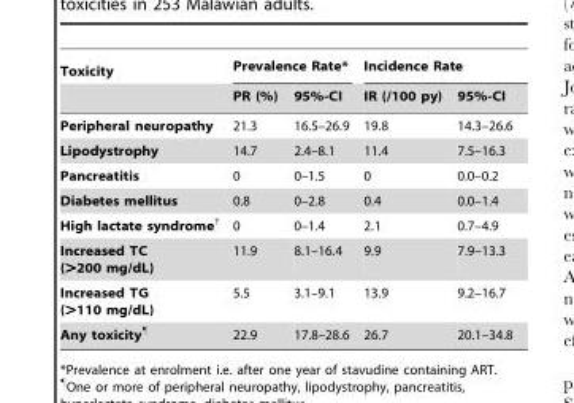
<table><thead><tr><td rowspan="2">Toxicity</td><td colspan="2">Prevalence Rate*</td><td colspan="2">Incidence Rate</td></tr><tr><td>PR (%)</td><td>95%-CI</td><td>IR (/100 py)</td><td>95%-CI</td></tr></thead><tbody><tr><td>Peripheral neuropathy</td><td>21.3</td><td>16.5–26.9</td><td>19.8</td><td>14.3–26.6</td></tr><tr><td>Lipodystrophy</td><td>14.7</td><td>2.4–8.1</td><td>11.4</td><td>7.5–16.3</td></tr><tr><td>Pancreatitis</td><td>0</td><td>0–1.5</td><td>0</td><td>0.0–0.2</td></tr><tr><td>Diabetes mellitus</td><td>0.8</td><td>0–2.8</td><td>0.4</td><td>0.0–1.4</td></tr><tr><td>High lactate syndrome†</td><td>0</td><td>0–1.4</td><td>2.1</td><td>0.7–4.9</td></tr><tr><td>Increased TC (&gt;200 mg/dL)</td><td>11.9</td><td>8.1–16.4</td><td>9.9</td><td>7.9–13.3</td></tr><tr><td>Increased TG (&gt;110 mg/dL)</td><td>5.5</td><td>3.1–9.1</td><td>13.9</td><td>9.2–16.7</td></tr><tr><td>Any toxicity¶</td><td>22.9</td><td>17.8–28.6</td><td>26.7</td><td>20.1–34.8</td></tr></tbody></table>